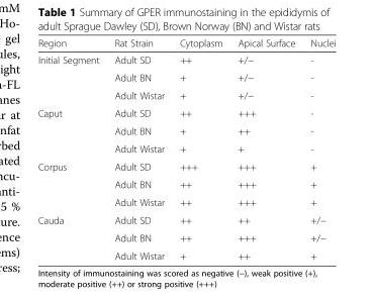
<table><thead><tr><td>Region</td><td>Rat Strain</td><td>Cytoplasm</td><td>Apical Surface</td><td>Nuclei</td></tr></thead><tbody><tr><td rowspan="3">Initial Segment</td><td>Adult SD</td><td>++</td><td>+/−</td><td>-</td></tr><tr><td>Adult BN</td><td>+</td><td>+/−</td><td>-</td></tr><tr><td>Adult Wistar</td><td>+</td><td>+/−</td><td>-</td></tr><tr><td rowspan="3">Caput</td><td>Adult SD</td><td>++</td><td>+++</td><td>-</td></tr><tr><td>Adult BN</td><td>+</td><td>++</td><td>-</td></tr><tr><td>Adult Wistar</td><td>+</td><td>+</td><td>-</td></tr><tr><td rowspan="3">Corpus</td><td>Adult SD</td><td>+++</td><td>+++</td><td>+</td></tr><tr><td>Adult BN</td><td>++</td><td>+++</td><td>+</td></tr><tr><td>Adult Wistar</td><td>++</td><td>+++</td><td>+</td></tr><tr><td rowspan="3">Cauda</td><td>Adult SD</td><td>++</td><td>++</td><td>+/−</td></tr><tr><td>Adult BN</td><td>++</td><td>+++</td><td>+/−</td></tr><tr><td>Adult Wistar</td><td>+</td><td>++</td><td>+</td></tr></tbody></table>